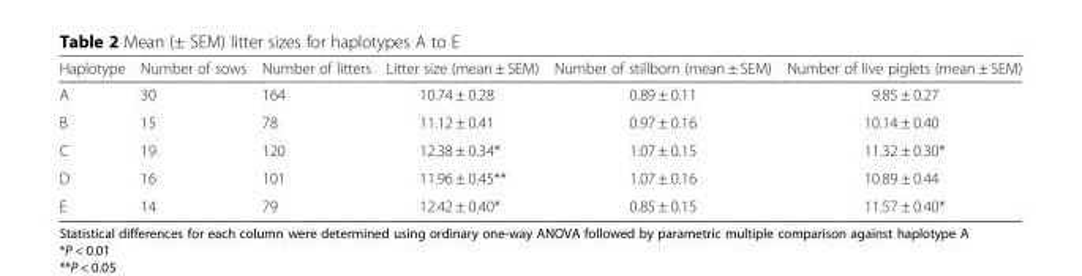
<table><thead><tr><td>Haplotype</td><td>Number of sows</td><td>Number of litters</td><td>Litter size (mean ± SEM)</td><td>Number of stillborn (mean ± SEM)</td><td>Number of live piglets (mean ± SEM)</td></tr></thead><tbody><tr><td>A</td><td>30</td><td>164</td><td>10.74 ± 0.28</td><td>0.89 ± 0.11</td><td>9.85 ± 0.27</td></tr><tr><td>B</td><td>15</td><td>78</td><td>11.12 ± 0.41</td><td>0.97 ± 0.16</td><td>10.14 ± 0.40</td></tr><tr><td>C</td><td>19</td><td>120</td><td>12.38 ± 0.34*</td><td>1.07 ± 0.15</td><td>11.32 ± 0.30*</td></tr><tr><td>D</td><td>16</td><td>101</td><td>11.96 ± 0.45**</td><td>1.07 ± 0.16</td><td>10.89 ± 0.44</td></tr><tr><td>E</td><td>14</td><td>79</td><td>12.42 ± 0.40*</td><td>0.85 ± 0.15</td><td>11.57 ± 0.40*</td></tr></tbody></table>